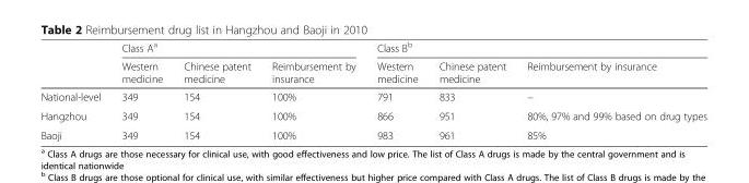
<table><thead><tr><td rowspan="2"></td><td colspan="3">Class A<sup>a</sup></td><td colspan="3">Class B<sup>b</sup></td></tr><tr><td>Western medicine</td><td>Chinese patent medicine</td><td>Reimbursement by insurance</td><td>Western medicine</td><td>Chinese patent medicine</td><td>Reimbursement by insurance</td></tr></thead><tbody><tr><td>National-level</td><td>349</td><td>154</td><td>100%</td><td>791</td><td>833</td><td>–</td></tr><tr><td>Hangzhou</td><td>349</td><td>154</td><td>100%</td><td>866</td><td>951</td><td>80%, 97% and 99% based on drug types</td></tr><tr><td>Baoji</td><td>349</td><td>154</td><td>100%</td><td>983</td><td>961</td><td>85%</td></tr></tbody></table>